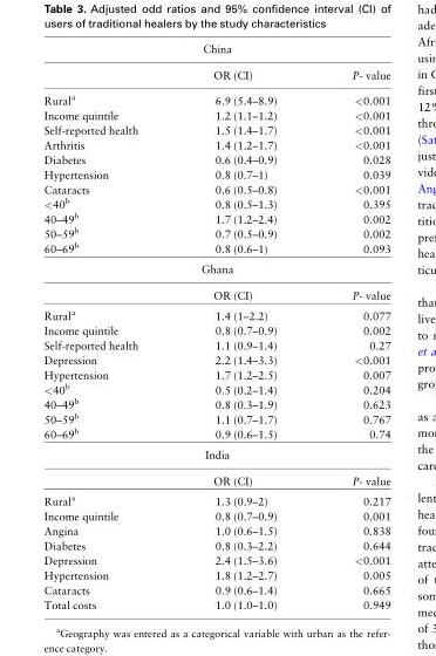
<table><thead><tr><td colspan="3">China</td></tr><tr><td></td><td>OR (CI)</td><td>P- value</td></tr></thead><tbody><tr><td>Rural<sup>a</sup></td><td>6.9 (5.4–8.9)</td><td>&lt;0.001</td></tr><tr><td>Income quintile</td><td>1.2 (1.1–1.2)</td><td>&lt;0.001</td></tr><tr><td>Self-reported health</td><td>1.5 (1.4–1.7)</td><td>&lt;0.001</td></tr><tr><td>Arthritis</td><td>1.4 (1.2–1.7)</td><td>&lt;0.001</td></tr><tr><td>Diabetes</td><td>0.6 (0.4–0.9)</td><td>0.028</td></tr><tr><td>Hypertension</td><td>0.8 (0.7–1)</td><td>0.039</td></tr><tr><td>Cataracts</td><td>0.6 (0.5–0.8)</td><td>&lt;0.001</td></tr><tr><td>&lt;40<sup>b</sup></td><td>0.8 (0.5–1.3)</td><td>0.395</td></tr><tr><td>40–49<sup>b</sup></td><td>1.7 (1.2–2.4)</td><td>0.002</td></tr><tr><td>50–59<sup>b</sup></td><td>0.7 (0.5–0.9)</td><td>0.002</td></tr><tr><td>60–69<sup>b</sup></td><td>0.8 (0.6–1)</td><td>0.093</td></tr><tr><td colspan="3">Ghana</td></tr><tr><td></td><td>OR (CI)</td><td>P- value</td></tr><tr><td>Rural<sup>a</sup></td><td>1.4 (1–2.2)</td><td>0.077</td></tr><tr><td>Income quintile</td><td>0.8 (0.7–0.9)</td><td>0.002</td></tr><tr><td>Self-reported health</td><td>1.1 (0.9–1.4)</td><td>0.27</td></tr><tr><td>Depression</td><td>2.2 (1.4–3.3)</td><td>&lt;0.001</td></tr><tr><td>Hypertension</td><td>1.7 (1.2–2.5)</td><td>0.007</td></tr><tr><td>&lt;40<sup>b</sup></td><td>0.5 (0.2–1.4)</td><td>0.204</td></tr><tr><td>40–49<sup>b</sup></td><td>0.8 (0.3–1.9)</td><td>0.623</td></tr><tr><td>50–59<sup>b</sup></td><td>1.1 (0.7–1.7)</td><td>0.767</td></tr><tr><td>60–69<sup>b</sup></td><td>0.9 (0.6–1.5)</td><td>0.74</td></tr><tr><td colspan="3">India</td></tr><tr><td></td><td>OR (CI)</td><td>P- value</td></tr><tr><td>Rural<sup>a</sup></td><td>1.3 (0.9–2)</td><td>0.217</td></tr><tr><td>Income quintile</td><td>0.8 (0.7–0.9)</td><td>0.001</td></tr><tr><td>Angina</td><td>1.0 (0.6–1.5)</td><td>0.838</td></tr><tr><td>Diabetes</td><td>0.8 (0.3–2.2)</td><td>0.644</td></tr><tr><td>Depression</td><td>2.4 (1.5–3.6)</td><td>&lt;0.001</td></tr><tr><td>Hypertension</td><td>1.8 (1.2–2.7)</td><td>0.005</td></tr><tr><td>Cataracts</td><td>0.9 (0.6–1.4)</td><td>0.665</td></tr><tr><td>Total costs</td><td>1.0 (1.0–1.0)</td><td>0.949</td></tr></tbody></table>